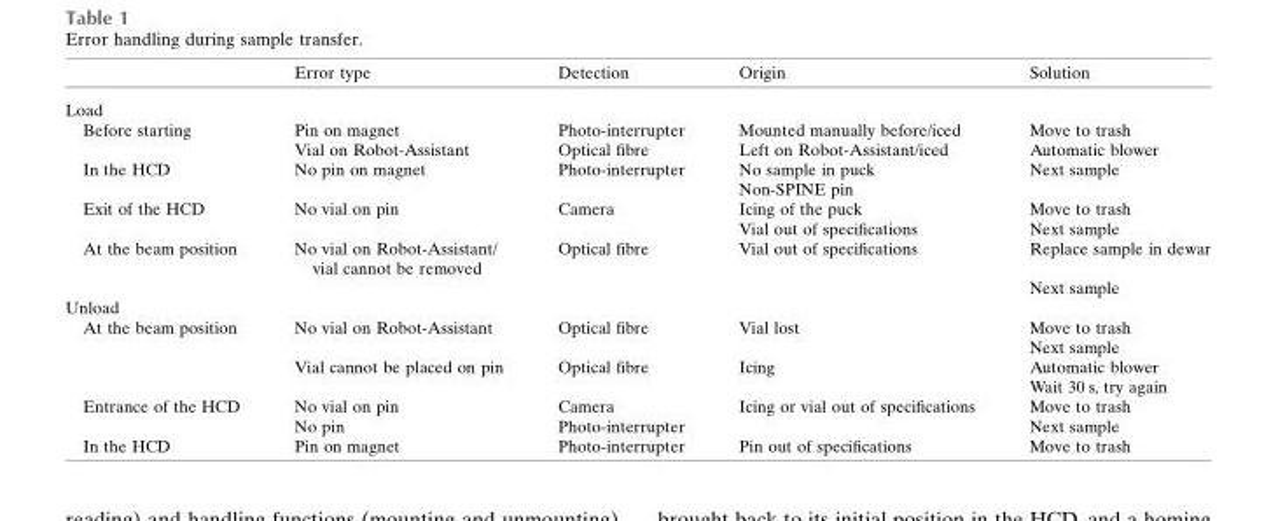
<table><thead><tr><td></td><td>Error type</td><td>Detection</td><td>Origin</td><td>Solution</td></tr></thead><tbody><tr><td colspan="5">Load</td></tr><tr><td rowspan="2">Before starting</td><td>Pin on magnet</td><td>Photo-interrupter</td><td>Mounted manually before/iced</td><td>Move to trash</td></tr><tr><td>Vial on Robot-Assistant</td><td>Optical fibre</td><td>Left on Robot-Assistant/iced</td><td>Automatic blower</td></tr><tr><td rowspan="2">In the HCD</td><td>No pin on magnet</td><td>Photo-interrupter</td><td>No sample in puck</td><td>Next sample</td></tr><tr><td></td><td></td><td>Non-SPINE pin</td><td></td></tr><tr><td rowspan="2">Exit of the HCD</td><td>No vial on pin</td><td>Camera</td><td>Icing of the puck</td><td>Move to trash</td></tr><tr><td></td><td></td><td>Vial out of specifications</td><td>Next sample</td></tr><tr><td rowspan="2">At the beam position</td><td>No vial on Robot-Assistant/ vial cannot be removed</td><td>Optical fibre</td><td>Vial out of specifications</td><td>Replace sample in dewar</td></tr><tr><td></td><td></td><td></td><td>Next sample</td></tr><tr><td colspan="5">Unload</td></tr><tr><td rowspan="4">At the beam position</td><td>No vial on Robot-Assistant</td><td>Optical fibre</td><td>Vial lost</td><td>Move to trash</td></tr><tr><td></td><td></td><td></td><td>Next sample</td></tr><tr><td>Vial cannot be placed on pin</td><td>Optical fibre</td><td>Icing</td><td>Automatic blower</td></tr><tr><td></td><td></td><td></td><td>Wait 30 s, try again</td></tr><tr><td rowspan="2">Entrance of the HCD</td><td>No vial on pin</td><td>Camera</td><td>Icing or vial out of specifications</td><td>Move to trash</td></tr><tr><td>No pin</td><td>Photo-interrupter</td><td></td><td>Next sample</td></tr><tr><td>In the HCD</td><td>Pin on magnet</td><td>Photo-interrupter</td><td>Pin out of specifications</td><td>Move to trash</td></tr></tbody></table>